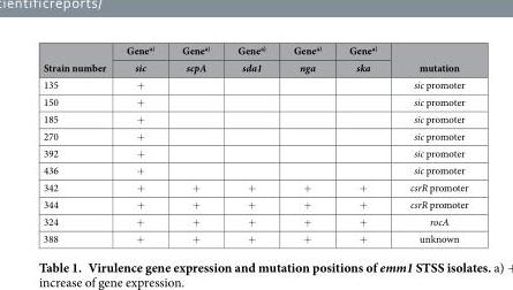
<table><thead><tr><td rowspan="2">Strain number</td><td rowspan="2">Gene<sup>a)</sup> sic</td><td rowspan="2">Gene<sup>a)</sup> scpA</td><td rowspan="2">Gene<sup>a)</sup> sda1</td><td rowspan="2">Gene<sup>a)</sup> nga</td><td rowspan="2">Gene<sup>a)</sup> ska</td><td rowspan="2">mutation</td></tr><tr></tr></thead><tbody><tr><td>135</td><td>+</td><td></td><td></td><td></td><td></td><td>sic promoter</td></tr><tr><td>150</td><td>+</td><td></td><td></td><td></td><td></td><td>sic promoter</td></tr><tr><td>185</td><td>+</td><td></td><td></td><td></td><td></td><td>sic promoter</td></tr><tr><td>270</td><td>+</td><td></td><td></td><td></td><td></td><td>sic promoter</td></tr><tr><td>392</td><td>+</td><td></td><td></td><td></td><td></td><td>sic promoter</td></tr><tr><td>436</td><td>+</td><td></td><td></td><td></td><td></td><td>sic promoter</td></tr><tr><td>342</td><td>+</td><td>+</td><td>+</td><td>+</td><td>+</td><td>csrR promoter</td></tr><tr><td>344</td><td>+</td><td>+</td><td>+</td><td>+</td><td>+</td><td>csrR promoter</td></tr><tr><td>324</td><td>+</td><td>+</td><td>+</td><td>+</td><td>+</td><td>rocA</td></tr><tr><td>388</td><td>+</td><td>+</td><td>+</td><td>+</td><td>+</td><td>unknown</td></tr></tbody></table>